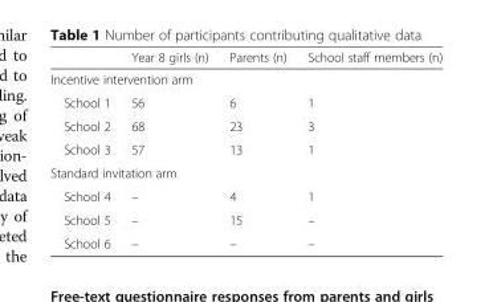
<table><thead><tr><td></td><td>Year 8 girls (n)</td><td>Parents (n)</td><td>School staff members (n)</td></tr></thead><tbody><tr><td colspan="4">Incentive intervention arm</td></tr><tr><td>School 1</td><td>56</td><td>6</td><td>1</td></tr><tr><td>School 2</td><td>68</td><td>23</td><td>3</td></tr><tr><td>School 3</td><td>57</td><td>13</td><td>1</td></tr><tr><td colspan="4">Standard invitation arm</td></tr><tr><td>School 4</td><td>–</td><td>4</td><td>1</td></tr><tr><td>School 5</td><td>–</td><td>15</td><td>–</td></tr><tr><td>School 6</td><td>–</td><td>–</td><td>–</td></tr></tbody></table>